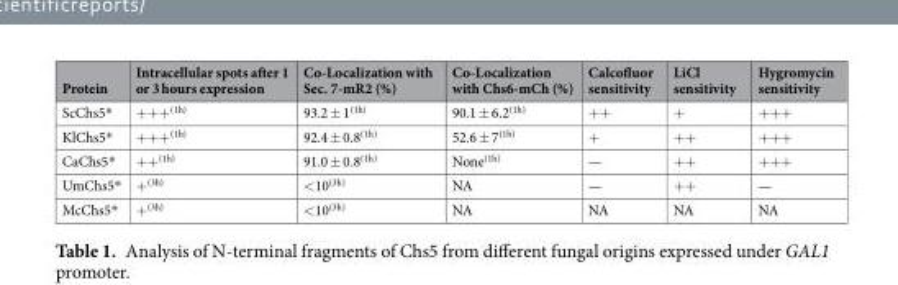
<table><thead><tr><td>Protein</td><td>Intracellular spots after 1 or 3 hours expression</td><td>Co-Localization with Sec. 7-mR2 (%)</td><td>Co-Localization with Chs6-mCh (%)</td><td>Calcofluor sensitivity</td><td>LiCl sensitivity</td><td>Hygromycin sensitivity</td></tr></thead><tbody><tr><td>ScChs5*</td><td>+++<sup>(1h)</sup></td><td>93.2 ± 1<sup>(1h)</sup></td><td>90.1 ± 6.2<sup>(1h)</sup></td><td>++</td><td>+</td><td>+++</td></tr><tr><td>KlChs5*</td><td>+++<sup>(1h)</sup></td><td>92.4 ± 0.8<sup>(1h)</sup></td><td>52.6 ± 7<sup>(1h)</sup></td><td>+</td><td>++</td><td>+++</td></tr><tr><td>CaChs5*</td><td>++<sup>(1h)</sup></td><td>91.0 ± 0.8<sup>(1h)</sup></td><td>None<sup>(1h)</sup></td><td>—</td><td>++</td><td>+++</td></tr><tr><td>UmChs5*</td><td>+<sup>(3h)</sup></td><td>&lt;10<sup>(3h)</sup></td><td>NA</td><td>—</td><td>++</td><td>—</td></tr><tr><td>McChs5*</td><td>+<sup>(3h)</sup></td><td>&lt;10<sup>(3h)</sup></td><td>NA</td><td>NA</td><td>NA</td><td>NA</td></tr></tbody></table>